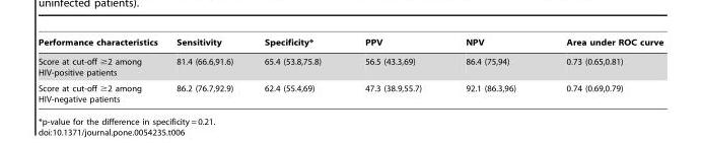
<table><thead><tr><td>Performance characteristics</td><td>Sensitivity</td><td>Specificity*</td><td>PPV</td><td>NPV</td><td>Area under ROC curve</td></tr></thead><tbody><tr><td>Score at cut-off ≥2 among HIV-positive patients</td><td>81.4 (66.6,91.6)</td><td>65.4 (53.8,75.8)</td><td>56.5 (43.3,69)</td><td>86.4 (75,94)</td><td>0.73 (0.65,0.81)</td></tr><tr><td>Score at cut-off ≥2 among HIV-negative patients</td><td>86.2 (76.7,92.9)</td><td>62.4 (55.4,69)</td><td>47.3 (38.9,55.7)</td><td>92.1 (86.3,96)</td><td>0.74 (0.69,0.79)</td></tr></tbody></table>